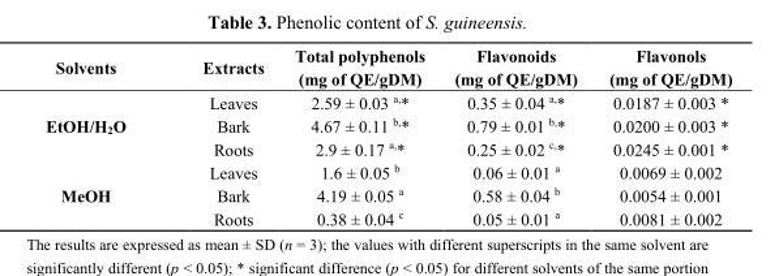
<table><thead><tr><td>Solvents</td><td>Extracts</td><td>Total polyphenols (mg of QE/gDM)</td><td>Flavonoids (mg of QE/gDM)</td><td>Flavonols (mg of QE/gDM)</td></tr></thead><tbody><tr><td rowspan="3">EtOH/H<sub>2</sub>O</td><td>Leaves</td><td>2.59 ± 0.03 <sup>a,</sup>*</td><td>0.35 ± 0.04 <sup>a,</sup>*</td><td>0.0187 ± 0.003 *</td></tr><tr><td>Bark</td><td>4.67 ± 0.11 <sup>b,</sup>*</td><td>0.79 ± 0.01 <sup>b,</sup>*</td><td>0.0200 ± 0.003 *</td></tr><tr><td>Roots</td><td>2.9 ± 0.17 <sup>a,</sup>*</td><td>0.25 ± 0.02 <sup>c,</sup>*</td><td>0.0245 ± 0.001 *</td></tr><tr><td rowspan="3">MeOH</td><td>Leaves</td><td>1.6 ± 0.05 <sup>b</sup></td><td>0.06 ± 0.01 <sup>a</sup></td><td>0.0069 ± 0.002</td></tr><tr><td>Bark</td><td>4.19 ± 0.05 <sup>a</sup></td><td>0.58 ± 0.04 <sup>b</sup></td><td>0.0054 ± 0.001</td></tr><tr><td>Roots</td><td>0.38 ± 0.04 <sup>c</sup></td><td>0.05 ± 0.01 <sup>a</sup></td><td>0.0081 ± 0.002</td></tr></tbody></table>